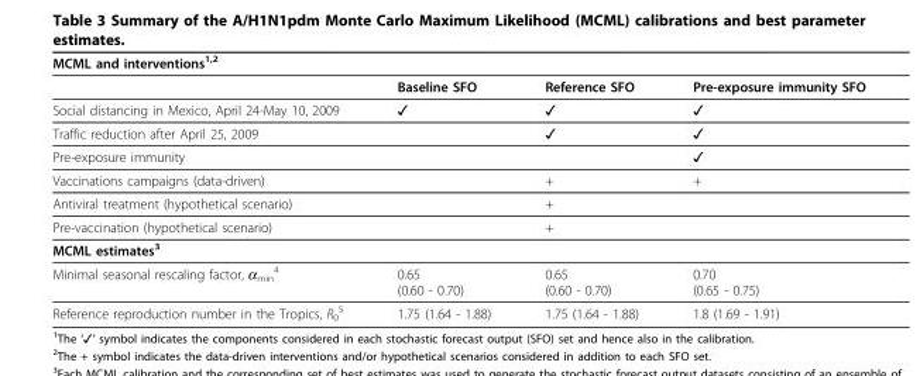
<table><thead><tr><td colspan="4">MCML and interventions<sup>1,2</sup></td></tr><tr><td></td><td>Baseline SFO</td><td>Reference SFO</td><td>Pre-exposure immunity SFO</td></tr></thead><tbody><tr><td>Social distancing in Mexico, April 24-May 10, 2009</td><td>✓</td><td>✓</td><td>✓</td></tr><tr><td>Traffic reduction after April 25, 2009</td><td></td><td>✓</td><td>✓</td></tr><tr><td>Pre-exposure immunity</td><td></td><td></td><td>✓</td></tr><tr><td>Vaccinations campaigns (data-driven)</td><td></td><td>+</td><td>+</td></tr><tr><td>Antiviral treatment (hypothetical scenario)</td><td></td><td>+</td><td></td></tr><tr><td>Pre-vaccination (hypothetical scenario)</td><td></td><td>+</td><td></td></tr><tr><td colspan="4">MCML estimates<sup>3</sup></td></tr><tr><td>Minimal seasonal rescaling factor, α<sub>min</sub> <sup>4</sup></td><td>0.65 (0.60 - 0.70)</td><td>0.65 (0.60 - 0.70)</td><td>0.70 (0.65 - 0.75)</td></tr><tr><td>Reference reproduction number in the Tropics, R<sub>0</sub> <sup>5</sup></td><td>1.75 (1.64 - 1.88)</td><td>1.75 (1.64 - 1.88)</td><td>1.8 (1.69 - 1.91)</td></tr></tbody></table>